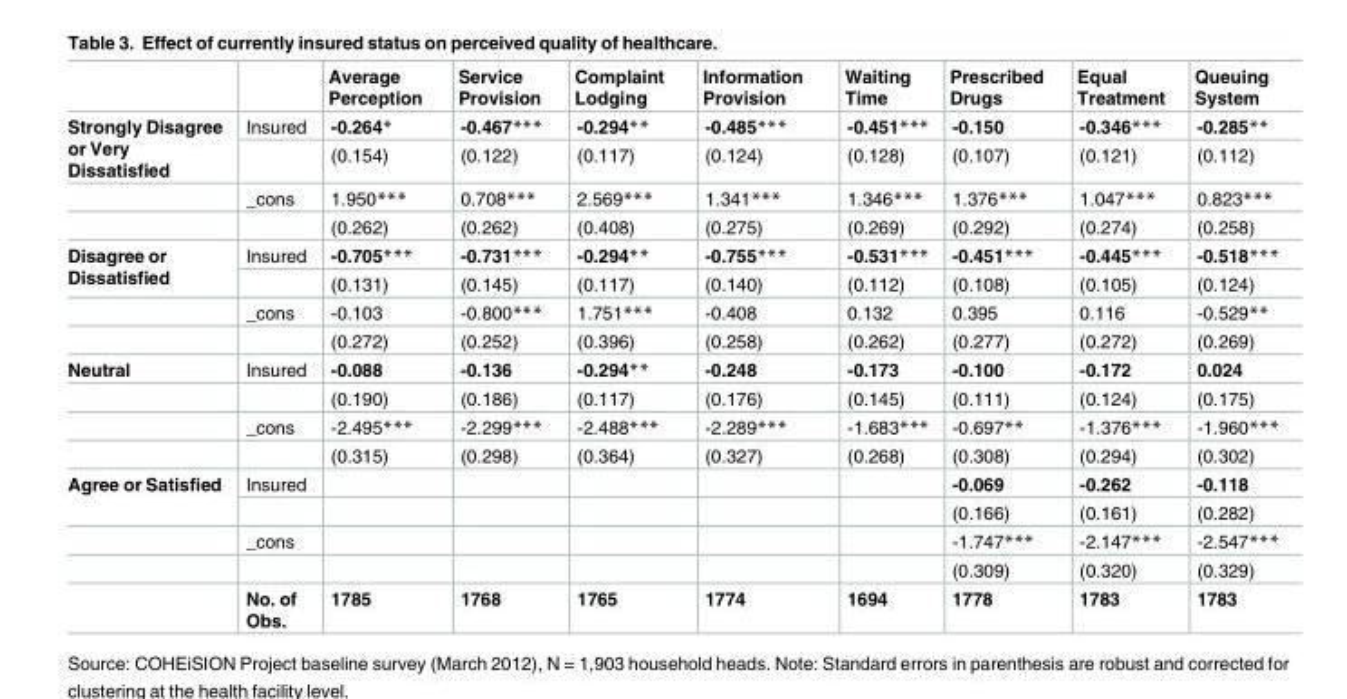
<table><thead><tr><td></td><td></td><td>Average Perception</td><td>Service Provision</td><td>Complaint Lodging</td><td>Information Provision</td><td>Waiting Time</td><td>Prescribed Drugs</td><td>Equal Treatment</td><td>Queuing System</td></tr></thead><tbody><tr><td rowspan="4">Strongly Disagree or Very Dissatisfied</td><td>Insured</td><td>-0.264*</td><td>-0.467***</td><td>-0.294**</td><td>-0.485***</td><td>-0.451***</td><td>-0.150</td><td>-0.346***</td><td>-0.285**</td></tr><tr><td></td><td>(0.154)</td><td>(0.122)</td><td>(0.117)</td><td>(0.124)</td><td>(0.128)</td><td>(0.107)</td><td>(0.121)</td><td>(0.112)</td></tr><tr><td>_cons</td><td>1.950***</td><td>0.708***</td><td>2.569***</td><td>1.341***</td><td>1.346***</td><td>1.376***</td><td>1.047***</td><td>0.823***</td></tr><tr><td></td><td>(0.262)</td><td>(0.262)</td><td>(0.408)</td><td>(0.275)</td><td>(0.269)</td><td>(0.292)</td><td>(0.274)</td><td>(0.258)</td></tr><tr><td rowspan="4">Disagree or Dissatisfied</td><td>Insured</td><td>-0.705***</td><td>-0.731***</td><td>-0.294**</td><td>-0.755***</td><td>-0.531***</td><td>-0.451***</td><td>-0.445***</td><td>-0.518***</td></tr><tr><td></td><td>(0.131)</td><td>(0.145)</td><td>(0.117)</td><td>(0.140)</td><td>(0.112)</td><td>(0.108)</td><td>(0.105)</td><td>(0.124)</td></tr><tr><td>_cons</td><td>-0.103</td><td>-0.800***</td><td>1.751***</td><td>-0.408</td><td>0.132</td><td>0.395</td><td>0.116</td><td>-0.529**</td></tr><tr><td></td><td>(0.272)</td><td>(0.252)</td><td>(0.396)</td><td>(0.258)</td><td>(0.262)</td><td>(0.277)</td><td>(0.272)</td><td>(0.269)</td></tr><tr><td rowspan="4">Neutral</td><td>Insured</td><td>-0.088</td><td>-0.136</td><td>-0.294**</td><td>-0.248</td><td>-0.173</td><td>-0.100</td><td>-0.172</td><td>0.024</td></tr><tr><td></td><td>(0.190)</td><td>(0.186)</td><td>(0.117)</td><td>(0.176)</td><td>(0.145)</td><td>(0.111)</td><td>(0.124)</td><td>(0.175)</td></tr><tr><td>_cons</td><td>-2.495***</td><td>-2.299***</td><td>-2.488***</td><td>-2.289***</td><td>-1.683***</td><td>-0.697**</td><td>-1.376***</td><td>-1.960***</td></tr><tr><td></td><td>(0.315)</td><td>(0.298)</td><td>(0.364)</td><td>(0.327)</td><td>(0.268)</td><td>(0.308)</td><td>(0.294)</td><td>(0.302)</td></tr><tr><td rowspan="5">Agree or Satisfied</td><td>Insured</td><td></td><td></td><td></td><td></td><td></td><td>-0.069</td><td>-0.262</td><td>-0.118</td></tr><tr><td></td><td></td><td></td><td></td><td></td><td></td><td>(0.166)</td><td>(0.161)</td><td>(0.282)</td></tr><tr><td>_cons</td><td></td><td></td><td></td><td></td><td></td><td>-1.747***</td><td>-2.147***</td><td>-2.547***</td></tr><tr><td></td><td></td><td></td><td></td><td></td><td></td><td>(0.309)</td><td>(0.320)</td><td>(0.329)</td></tr><tr><td>No. of Obs.</td><td>1785</td><td>1768</td><td>1765</td><td>1774</td><td>1694</td><td>1778</td><td>1783</td><td>1783</td></tr></tbody></table>